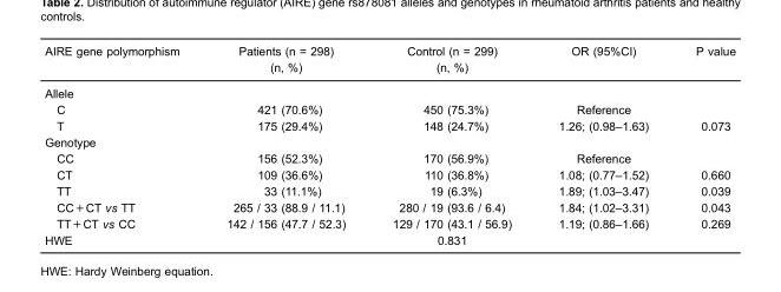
<table><thead><tr><td>AIRE gene polymorphism</td><td>Patients (n = 298) (n, %)</td><td>Control (n = 299) (n, %)</td><td>OR (95%CI)</td><td>P value</td></tr></thead><tbody><tr><td colspan="5">Allele</td></tr><tr><td>C</td><td>421 (70.6%)</td><td>450 (75.3%)</td><td>Reference</td><td></td></tr><tr><td>T</td><td>175 (29.4%)</td><td>148 (24.7%)</td><td>1.26; (0.98–1.63)</td><td>0.073</td></tr><tr><td colspan="5">Genotype</td></tr><tr><td>CC</td><td>156 (52.3%)</td><td>170 (56.9%)</td><td>Reference</td><td></td></tr><tr><td>CT</td><td>109 (36.6%)</td><td>110 (36.8%)</td><td>1.08; (0.77–1.52)</td><td>0.660</td></tr><tr><td>TT</td><td>33 (11.1%)</td><td>19 (6.3%)</td><td>1.89; (1.03–3.47)</td><td>0.039</td></tr><tr><td>CC+CT vs TT</td><td>265 / 33 (88.9 / 11.1)</td><td>280 / 19 (93.6 / 6.4)</td><td>1.84; (1.02–3.31)</td><td>0.043</td></tr><tr><td>TT+CT vs CC</td><td>142 / 156 (47.7 / 52.3)</td><td>129 / 170 (43.1 / 56.9)</td><td>1.19; (0.86–1.66)</td><td>0.269</td></tr><tr><td>HWE</td><td></td><td>0.831</td><td></td><td></td></tr></tbody></table>